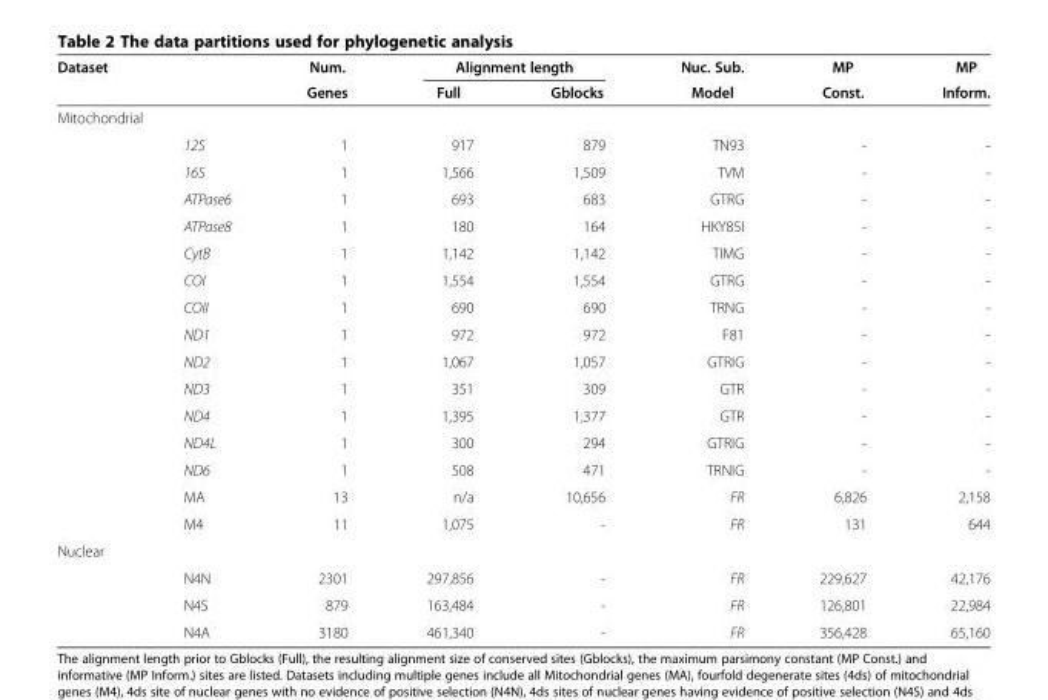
<table><thead><tr><td rowspan="2">Dataset</td><td rowspan="2"></td><td rowspan="2">Num. Genes</td><td colspan="2">Alignment length</td><td rowspan="2">Nuc. Sub. Model</td><td rowspan="2">MP Const.</td><td rowspan="2">MP Inform.</td></tr><tr><td>Full</td><td>Gblocks</td></tr></thead><tbody><tr><td colspan="8">Mitochondrial</td></tr><tr><td></td><td>12S</td><td>1</td><td>917</td><td>879</td><td>TN93</td><td>-</td><td>-</td></tr><tr><td></td><td>16S</td><td>1</td><td>1,566</td><td>1,509</td><td>TVM</td><td>-</td><td>-</td></tr><tr><td></td><td>ATPase6</td><td>1</td><td>693</td><td>683</td><td>GTRG</td><td>-</td><td>-</td></tr><tr><td></td><td>ATPase8</td><td>1</td><td>180</td><td>164</td><td>HKY85I</td><td>-</td><td>-</td></tr><tr><td></td><td>CytB</td><td>1</td><td>1,142</td><td>1,142</td><td>TIMG</td><td>-</td><td>-</td></tr><tr><td></td><td>COI</td><td>1</td><td>1,554</td><td>1,554</td><td>GTRG</td><td>-</td><td>-</td></tr><tr><td></td><td>COII</td><td>1</td><td>690</td><td>690</td><td>TRNG</td><td>-</td><td>-</td></tr><tr><td></td><td>ND1</td><td>1</td><td>972</td><td>972</td><td>F81</td><td>-</td><td>-</td></tr><tr><td></td><td>ND2</td><td>1</td><td>1,067</td><td>1,057</td><td>GTRIG</td><td>-</td><td>-</td></tr><tr><td></td><td>ND3</td><td>1</td><td>351</td><td>309</td><td>GTR</td><td>-</td><td>-</td></tr><tr><td></td><td>ND4</td><td>1</td><td>1,395</td><td>1,377</td><td>GTR</td><td>-</td><td>-</td></tr><tr><td></td><td>ND4L</td><td>1</td><td>300</td><td>294</td><td>GTRIG</td><td>-</td><td>-</td></tr><tr><td></td><td>ND6</td><td>1</td><td>508</td><td>471</td><td>TRNIG</td><td>-</td><td>-</td></tr><tr><td></td><td>MA</td><td>13</td><td>n/a</td><td>10,656</td><td>FR</td><td>6,826</td><td>2,158</td></tr><tr><td></td><td>M4</td><td>11</td><td>1,075</td><td>-</td><td>FR</td><td>131</td><td>644</td></tr><tr><td colspan="8">Nuclear</td></tr><tr><td></td><td>N4N</td><td>2301</td><td>297,856</td><td>-</td><td>FR</td><td>229,627</td><td>42,176</td></tr><tr><td></td><td>N4S</td><td>879</td><td>163,484</td><td>-</td><td>FR</td><td>126,801</td><td>22,984</td></tr><tr><td></td><td>N4A</td><td>3180</td><td>461,340</td><td>-</td><td>FR</td><td>356,428</td><td>65,160</td></tr></tbody></table>